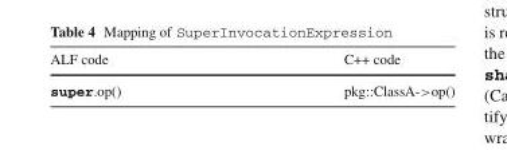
<table><thead><tr><td>ALF code</td><td>C++ code</td></tr></thead><tbody><tr><td>super.op()</td><td>pkg::ClassA-&gt;op()</td></tr></tbody></table>